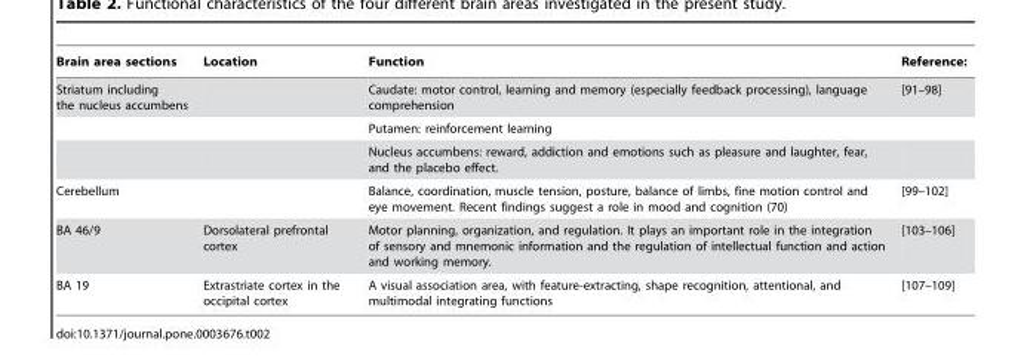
<table><thead><tr><td>Brain area sections</td><td>Location</td><td>Function</td><td>Reference:</td></tr></thead><tbody><tr><td rowspan="3">Striatum including the nucleus accumbens</td><td></td><td>Caudate: motor control, learning and memory (especially feedback processing), language comprehension</td><td>[91–98]</td></tr><tr><td></td><td>Putamen: reinforcement learning</td><td></td></tr><tr><td></td><td>Nucleus accumbens: reward, addiction and emotions such as pleasure and laughter, fear, and the placebo effect.</td><td></td></tr><tr><td>Cerebellum</td><td></td><td>Balance, coordination, muscle tension, posture, balance of limbs, fine motion control and eye movement. Recent findings suggest a role in mood and cognition (70)</td><td>[99–102]</td></tr><tr><td>BA 46/9</td><td>Dorsolateral prefrontal cortex</td><td>Motor planning, organization, and regulation. It plays an important role in the integration of sensory and mnemonic information and the regulation of intellectual function and action and working memory.</td><td>[103–106]</td></tr><tr><td>BA 19</td><td>Extrastriate cortex in the occipital cortex</td><td>A visual association area, with feature-extracting, shape recognition, attentional, and multimodal integrating functions</td><td>[107–109]</td></tr></tbody></table>